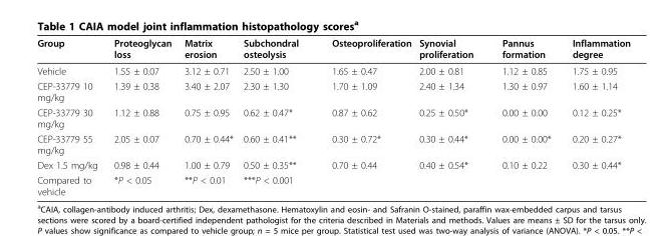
<table><thead><tr><td>Group</td><td>Proteoglycan loss</td><td>Matrix erosion</td><td>Subchondral osteolysis</td><td>Osteoproliferation</td><td>Synovial proliferation</td><td>Pannus formation</td><td>Inflammation degree</td></tr></thead><tbody><tr><td>Vehicle</td><td>1.55 ± 0.07</td><td>3.12 ± 0.71</td><td>2.50 ± 1.00</td><td>1.65 ± 0.47</td><td>2.00 ± 0.81</td><td>1.12 ± 0.85</td><td>1.75 ± 0.95</td></tr><tr><td>CEP-33779 10 mg/kg</td><td>1.39 ± 0.38</td><td>3.40 ± 2.07</td><td>2.30 ± 1.30</td><td>1.70 ± 1.09</td><td>2.40 ± 1.34</td><td>1.30 ± 0.97</td><td>1.60 ± 1.14</td></tr><tr><td>CEP-33779 30 mg/kg</td><td>1.12 ± 0.88</td><td>0.75 ± 0.95</td><td>0.62 ± 0.47*</td><td>0.87 ± 0.62</td><td>0.25 ± 0.50*</td><td>0.00 ± 0.00</td><td>0.12 ± 0.25*</td></tr><tr><td>CEP-33779 55 mg/kg</td><td>2.05 ± 0.07</td><td>0.70 ± 0.44*</td><td>0.60 ± 0.41**</td><td>0.30 ± 0.72*</td><td>0.30 ± 0.44*</td><td>0.00 ± 0.00*</td><td>0.20 ± 0.27*</td></tr><tr><td>Dex 1.5 mg/kg</td><td>0.98 ± 0.44</td><td>1.00 ± 0.79</td><td>0.50 ± 0.35**</td><td>0.70 ± 0.44</td><td>0.40 ± 0.54*</td><td>0.10 ± 0.22</td><td>0.30 ± 0.44*</td></tr><tr><td>Compared to vehicle</td><td>*P &lt; 0.05</td><td>**P &lt; 0.01</td><td>***P &lt; 0.001</td><td></td><td></td><td></td><td></td></tr></tbody></table>